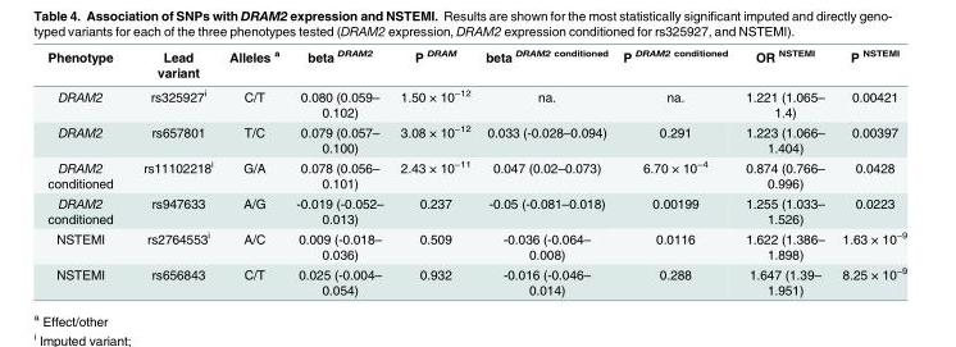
<table><thead><tr><td>Phenotype</td><td>Lead variant</td><td>Alleles <sup>a</sup></td><td>beta <sup>DRAM2</sup></td><td>P <sup>DRAM</sup></td><td>beta <sup>DRAM2 conditioned</sup></td><td>P <sup>DRAM2 conditioned</sup></td><td>OR <sup>NSTEMI</sup></td><td>P <sup>NSTEMI</sup></td></tr></thead><tbody><tr><td>DRAM2</td><td>rs325927<sup>i</sup></td><td>C/T</td><td>0.080 (0.059– 0.102)</td><td>1.50 × 10<sup>−12</sup></td><td>na.</td><td>na.</td><td>1.221 (1.065– 1.4)</td><td>0.00421</td></tr><tr><td>DRAM2</td><td>rs657801</td><td>T/C</td><td>0.079 (0.057– 0.100)</td><td>3.08 × 10<sup>−12</sup></td><td>0.033 (-0.028–0.094)</td><td>0.291</td><td>1.223 (1.066– 1.404)</td><td>0.00397</td></tr><tr><td>DRAM2 conditioned</td><td>rs11102218<sup>i</sup></td><td>G/A</td><td>0.078 (0.056– 0.101)</td><td>2.43 × 10<sup>−11</sup></td><td>0.047 (0.02–0.073)</td><td>6.70 × 10<sup>−4</sup></td><td>0.874 (0.766– 0.996)</td><td>0.0428</td></tr><tr><td>DRAM2 conditioned</td><td>rs947633</td><td>A/G</td><td>-0.019 (-0.052– 0.013)</td><td>0.237</td><td>-0.05 (-0.081–0.018)</td><td>0.00199</td><td>1.255 (1.033– 1.526)</td><td>0.0223</td></tr><tr><td>NSTEMI</td><td>rs2764553<sup>i</sup></td><td>A/C</td><td>0.009 (-0.018– 0.036)</td><td>0.509</td><td>-0.036 (-0.064– 0.008)</td><td>0.0116</td><td>1.622 (1.386– 1.898)</td><td>1.63 × 10<sup>−9</sup></td></tr><tr><td>NSTEMI</td><td>rs656843</td><td>C/T</td><td>0.025 (-0.004– 0.054)</td><td>0.932</td><td>-0.016 (-0.046– 0.014)</td><td>0.288</td><td>1.647 (1.39– 1.951)</td><td>8.25 × 10<sup>−9</sup></td></tr></tbody></table>